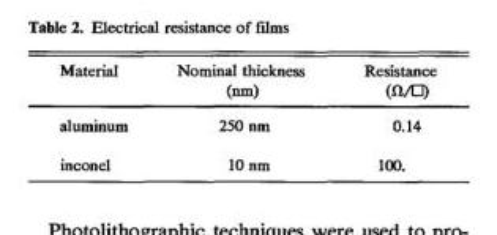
<table><thead><tr><td>Material</td><td>Nominal thickness (nm)</td><td>Resistance (fl/O)</td></tr></thead><tbody><tr><td>aluminum</td><td>250 nm</td><td>0.14</td></tr><tr><td>inconel</td><td>10 nm</td><td>100.</td></tr></tbody></table>